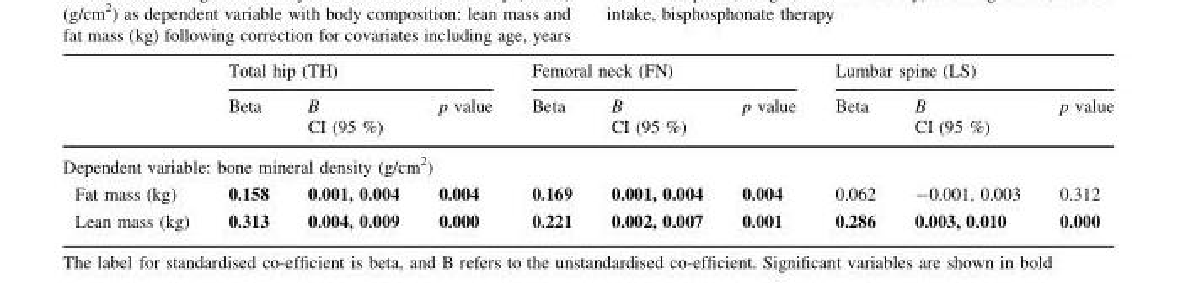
<table><thead><tr><td rowspan="2"></td><td colspan="3">Total hip (TH)</td><td colspan="3">Femoral neck (FN)</td><td colspan="3">Lumbar spine (LS)</td></tr><tr><td>Beta</td><td>B CI (95 %)</td><td>p value</td><td>Beta</td><td>B CI (95 %)</td><td>p value</td><td>Beta</td><td>B CI (95 %)</td><td>p value</td></tr></thead><tbody><tr><td colspan="10">Dependent variable: bone mineral density (g/cm<sup>2</sup>)</td></tr><tr><td>Fat mass (kg)</td><td>0.158</td><td>0.001, 0.004</td><td>0.004</td><td>0.169</td><td>0.001, 0.004</td><td>0.004</td><td>0.062</td><td>-0.001, 0.003</td><td>0.312</td></tr><tr><td>Lean mass (kg)</td><td>0.313</td><td>0.004, 0.009</td><td>0.000</td><td>0.221</td><td>0.002, 0.007</td><td>0.001</td><td>0.286</td><td>0.003, 0.010</td><td>0.000</td></tr></tbody></table>